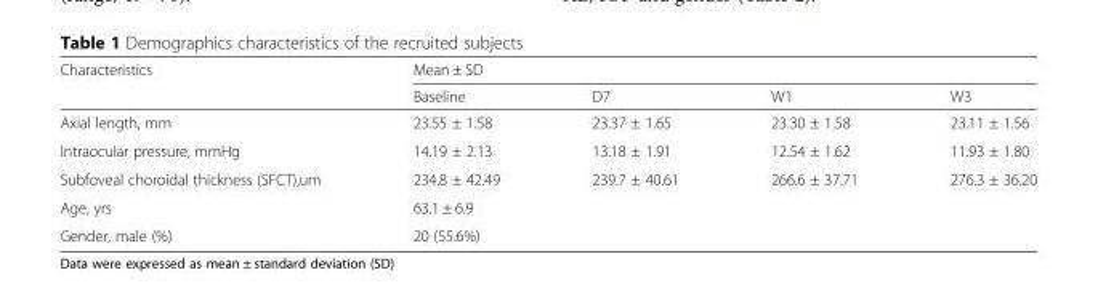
<table><thead><tr><td rowspan="2">Characteristics</td><td colspan="4">Mean ± SD</td></tr><tr><td>Baseline</td><td>D7</td><td>W1</td><td>W3</td></tr></thead><tbody><tr><td>Axial length, mm</td><td>23.55 ± 1.58</td><td>23.37 ± 1.65</td><td>23.30 ± 1.58</td><td>23.11 ± 1.56</td></tr><tr><td>Intraocular pressure, mmHg</td><td>14.19 ± 2.13</td><td>13.18 ± 1.91</td><td>12.54 ± 1.62</td><td>11.93 ± 1.80</td></tr><tr><td>Subfoveal choroidal thickness (SFCT),um</td><td>234.8 ± 42.49</td><td>239.7 ± 40.61</td><td>266.6 ± 37.71</td><td>276.3 ± 36.20</td></tr><tr><td>Age, yrs</td><td colspan="4">63.1 ± 6.9</td></tr><tr><td>Gender, male (%)</td><td colspan="4">20 (55.6%)</td></tr></tbody></table>